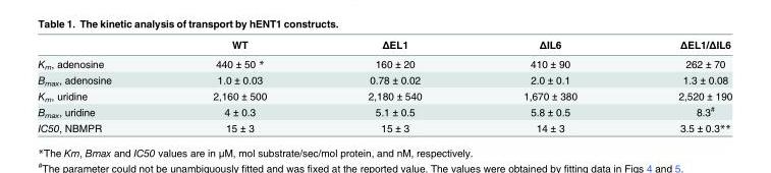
<table><thead><tr><td></td><td>WT</td><td>ΔEL1</td><td>ΔIL6</td><td>ΔEL1/ΔIL6</td></tr></thead><tbody><tr><td>K<sub>m</sub>, adenosine</td><td>440 ± 50 *</td><td>160 ± 20</td><td>410 ± 90</td><td>262 ± 70</td></tr><tr><td>B<sub>max</sub>, adenosine</td><td>1.0 ± 0.03</td><td>0.78 ± 0.02</td><td>2.0 ± 0.1</td><td>1.3 ± 0.08</td></tr><tr><td>K<sub>m</sub>, uridine</td><td>2,160 ± 500</td><td>2,180 ± 540</td><td>1,670 ± 380</td><td>2,520 ± 190</td></tr><tr><td>B<sub>max</sub>, uridine</td><td>4 ± 0.3</td><td>5.1 ± 0.5</td><td>5.8 ± 0.5</td><td>8.3<sup>#</sup></td></tr><tr><td>IC50, NBMPR</td><td>15 ± 3</td><td>15 ± 3</td><td>14 ± 3</td><td>3.5 ± 0.3**</td></tr></tbody></table>